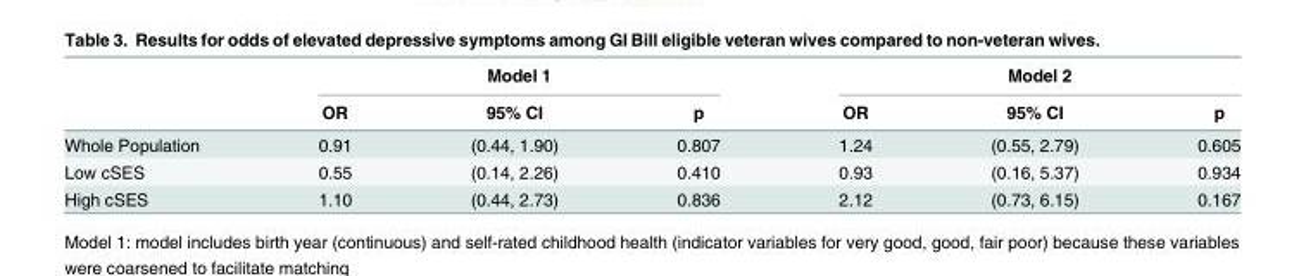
<table><thead><tr><td rowspan="2"></td><td colspan="3">Model 1</td><td colspan="3">Model 2</td></tr><tr><td>OR</td><td>95% CI</td><td>p</td><td>OR</td><td>95% CI</td><td>p</td></tr></thead><tbody><tr><td>Whole Population</td><td>0.91</td><td>(0.44, 1.90)</td><td>0.807</td><td>1.24</td><td>(0.55, 2.79)</td><td>0.605</td></tr><tr><td>Low cSES</td><td>0.55</td><td>(0.14, 2.26)</td><td>0.410</td><td>0.93</td><td>(0.16, 5.37)</td><td>0.934</td></tr><tr><td>High cSES</td><td>1.10</td><td>(0.44, 2.73)</td><td>0.836</td><td>2.12</td><td>(0.73, 6.15)</td><td>0.167</td></tr></tbody></table>